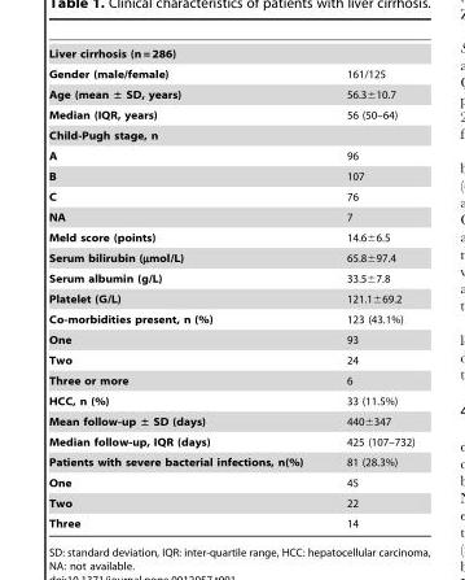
<table><tbody><tr><td colspan="2">Liver cirrhosis (n = 286)</td></tr><tr><td>Gender (male/female)</td><td>161/125</td></tr><tr><td>Age (mean ± SD, years)</td><td>56.3±10.7</td></tr><tr><td>Median (IQR, years)</td><td>56 (50–64)</td></tr><tr><td colspan="2">Child-Pugh stage, n</td></tr><tr><td>A</td><td>96</td></tr><tr><td>B</td><td>107</td></tr><tr><td>C</td><td>76</td></tr><tr><td>NA</td><td>7</td></tr><tr><td>Meld score (points)</td><td>14.6±6.5</td></tr><tr><td>Serum bilirubin (µmol/L)</td><td>65.8±97.4</td></tr><tr><td>Serum albumin (g/L)</td><td>33.5±7.8</td></tr><tr><td>Platelet (G/L)</td><td>121.1±69.2</td></tr><tr><td>Co-morbidities present, n (%)</td><td>123 (43.1%)</td></tr><tr><td>One</td><td>93</td></tr><tr><td>Two</td><td>24</td></tr><tr><td>Three or more</td><td>6</td></tr><tr><td>HCC, n (%)</td><td>33 (11.5%)</td></tr><tr><td>Mean follow-up ± SD (days)</td><td>440±347</td></tr><tr><td>Median follow-up, IQR (days)</td><td>425 (107–732)</td></tr><tr><td>Patients with severe bacterial infections, n(%)</td><td>81 (28.3%)</td></tr><tr><td>One</td><td>45</td></tr><tr><td>Two</td><td>22</td></tr><tr><td>Three</td><td>14</td></tr></tbody></table>